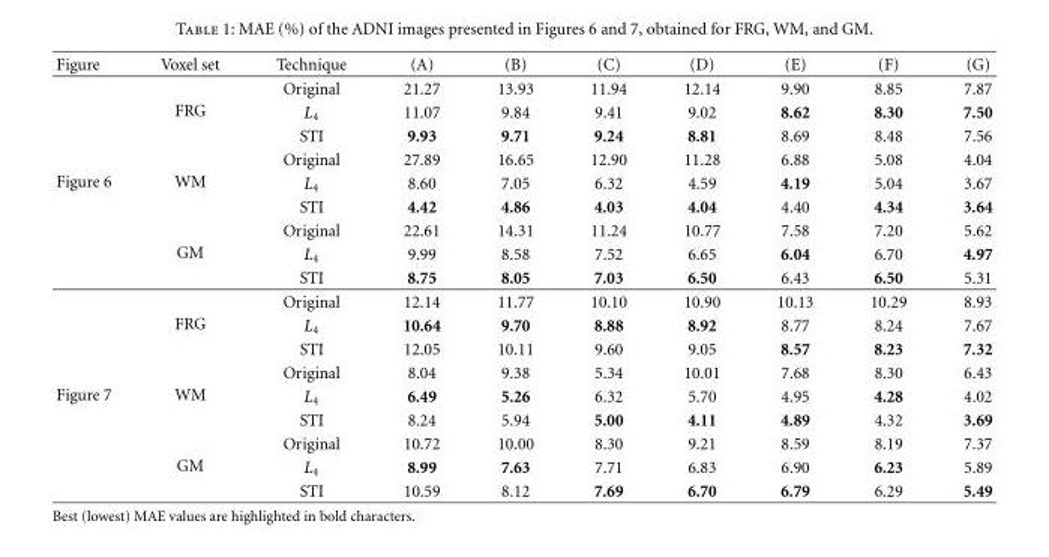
<table><thead><tr><td>Figure</td><td>Voxel set</td><td>Technique</td><td>(A)</td><td>(B)</td><td>(C)</td><td>(D)</td><td>(E)</td><td>(F)</td><td>(G)</td></tr></thead><tbody><tr><td rowspan="9">Figure 6</td><td rowspan="3">FRG</td><td>Original</td><td>21.27</td><td>13.93</td><td>11.94</td><td>12.14</td><td>9.90</td><td>8.85</td><td>7.87</td></tr><tr><td>L<sub>4</sub></td><td>11.07</td><td>9.84</td><td>9.41</td><td>9.02</td><td>8.62</td><td>8.30</td><td>7.50</td></tr><tr><td>STI</td><td>9.93</td><td>9.71</td><td>9.24</td><td>8.81</td><td>8.69</td><td>8.48</td><td>7.56</td></tr><tr><td rowspan="3">WM</td><td>Original</td><td>27.89</td><td>16.65</td><td>12.90</td><td>11.28</td><td>6.88</td><td>5.08</td><td>4.04</td></tr><tr><td>L<sub>4</sub></td><td>8.60</td><td>7.05</td><td>6.32</td><td>4.59</td><td>4.19</td><td>5.04</td><td>3.67</td></tr><tr><td>STI</td><td>4.42</td><td>4.86</td><td>4.03</td><td>4.04</td><td>4.40</td><td>4.34</td><td>3.64</td></tr><tr><td rowspan="3">GM</td><td>Original</td><td>22.61</td><td>14.31</td><td>11.24</td><td>10.77</td><td>7.58</td><td>7.20</td><td>5.62</td></tr><tr><td>L<sub>4</sub></td><td>9.99</td><td>8.58</td><td>7.52</td><td>6.65</td><td>6.04</td><td>6.70</td><td>4.97</td></tr><tr><td>STI</td><td>8.75</td><td>8.05</td><td>7.03</td><td>6.50</td><td>6.43</td><td>6.50</td><td>5.31</td></tr><tr><td rowspan="9">Figure 7</td><td rowspan="3">FRG</td><td>Original</td><td>12.14</td><td>11.77</td><td>10.10</td><td>10.90</td><td>10.13</td><td>10.29</td><td>8.93</td></tr><tr><td>L<sub>4</sub></td><td>10.64</td><td>9.70</td><td>8.88</td><td>8.92</td><td>8.77</td><td>8.24</td><td>7.67</td></tr><tr><td>STI</td><td>12.05</td><td>10.11</td><td>9.60</td><td>9.05</td><td>8.57</td><td>8.23</td><td>7.32</td></tr><tr><td rowspan="3">WM</td><td>Original</td><td>8.04</td><td>9.38</td><td>5.34</td><td>10.01</td><td>7.68</td><td>8.30</td><td>6.43</td></tr><tr><td>L<sub>4</sub></td><td>6.49</td><td>5.26</td><td>6.32</td><td>5.70</td><td>4.95</td><td>4.28</td><td>4.02</td></tr><tr><td>STI</td><td>8.24</td><td>5.94</td><td>5.00</td><td>4.11</td><td>4.89</td><td>4.32</td><td>3.69</td></tr><tr><td rowspan="3">GM</td><td>Original</td><td>10.72</td><td>10.00</td><td>8.30</td><td>9.21</td><td>8.59</td><td>8.19</td><td>7.37</td></tr><tr><td>L<sub>4</sub></td><td>8.99</td><td>7.63</td><td>7.71</td><td>6.83</td><td>6.90</td><td>6.23</td><td>5.89</td></tr><tr><td>STI</td><td>10.59</td><td>8.12</td><td>7.69</td><td>6.70</td><td>6.79</td><td>6.29</td><td>5.49</td></tr></tbody></table>